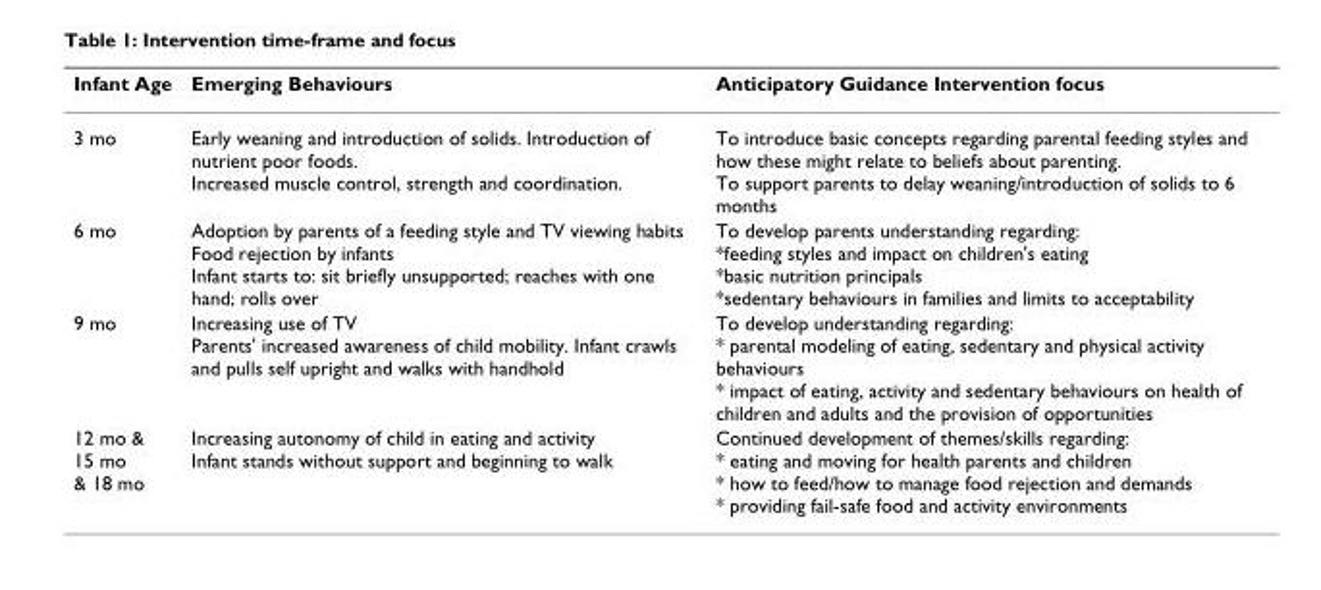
<table><thead><tr><td>Infant Age</td><td>Emerging Behaviours</td><td>Anticipatory Guidance Intervention focus</td></tr></thead><tbody><tr><td>3 mo</td><td>Early weaning and introduction of solids. Introduction of nutrient poor foods. Increased muscle control, strength and coordination.</td><td>To introduce basic concepts regarding parental feeding styles and how these might relate to beliefs about parenting. To support parents to delay weaning/introduction of solids to 6 months</td></tr><tr><td>6 mo</td><td>Adoption by parents of a feeding style and TV viewing habits Food rejection by infants Infant starts to: sit briefly unsupported; reaches with one hand; rolls over</td><td>To develop parents understanding regarding: *feeding styles and impact on children&#x27;s eating *basic nutrition principals *sedentary behaviours in families and limits to acceptability</td></tr><tr><td>9 mo</td><td>Increasing use of TV Parents&#x27; increased awareness of child mobility. Infant crawls and pulls self upright and walks with handhold</td><td>To develop understanding regarding: * parental modeling of eating, sedentary and physical activity behaviours * impact of eating, activity and sedentary behaviours on health of children and adults and the provision of opportunities</td></tr><tr><td>12 mo &amp; 15 mo &amp; 18 mo</td><td>Increasing autonomy of child in eating and activity Infant stands without support and beginning to walk</td><td>Continued development of themes/skills regarding: * eating and moving for health parents and children * how to feed/how to manage food rejection and demands * providing fail-safe food and activity environments</td></tr></tbody></table>